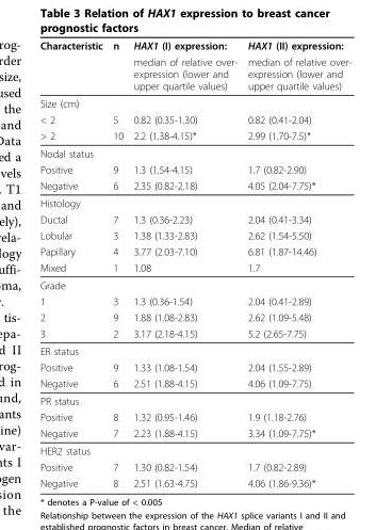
<table><thead><tr><td rowspan="2">Characteristic</td><td rowspan="2">n</td><td rowspan="2">HAX1 (I) expression: median of relative over- expression (lower and upper quartile values)</td><td rowspan="2">HAX1 (II) expression: median of relative over- expression (lower and upper quartile values)</td></tr><tr></tr></thead><tbody><tr><td colspan="4">Size (cm)</td></tr><tr><td>&lt; 2</td><td>5</td><td>0.82 (0.35-1.30)</td><td>0.82 (0.41-2.04)</td></tr><tr><td>&gt; 2</td><td>10</td><td>2.2 (1.38-4.15)*</td><td>2.99 (1.70-7.5)*</td></tr><tr><td colspan="4">Nodal status</td></tr><tr><td>Positive</td><td>9</td><td>1.3 (1.54-4.15)</td><td>1.7 (0.82-2.90)</td></tr><tr><td>Negative</td><td>6</td><td>2.35 (0.82-2.18)</td><td>4.05 (2.04-7.75)*</td></tr><tr><td colspan="4">Histology</td></tr><tr><td>Ductal</td><td>7</td><td>1.3 (0.36-2.23)</td><td>2.04 (0.41-3.34)</td></tr><tr><td>Lobular</td><td>3</td><td>1.38 (1.33-2.83)</td><td>2.62 (1.54-5.50)</td></tr><tr><td>Papillary</td><td>4</td><td>3.77 (2.03-7.10)</td><td>6.81 (1.87-14.46)</td></tr><tr><td>Mixed</td><td>1</td><td>1.08</td><td>1.7</td></tr><tr><td colspan="4">Grade</td></tr><tr><td>1</td><td>3</td><td>1.3 (0.36-1.54)</td><td>2.04 (0.41-2.89)</td></tr><tr><td>2</td><td>9</td><td>1.88 (1.08-2.83)</td><td>2.62 (1.09-5.48)</td></tr><tr><td>3</td><td>2</td><td>3.17 (2.18-4.15)</td><td>5.2 (2.65-7.75)</td></tr><tr><td colspan="4">ER status</td></tr><tr><td>Positive</td><td>9</td><td>1.33 (1.08-1.54)</td><td>2.04 (1.55-2.89)</td></tr><tr><td>Negative</td><td>6</td><td>2.51 (1.88-4.15)</td><td>4.06 (1.09-7.75)</td></tr><tr><td colspan="4">PR status</td></tr><tr><td>Positive</td><td>8</td><td>1.32 (0.95-1.46)</td><td>1.9 (1.18-2.76)</td></tr><tr><td>Negative</td><td>7</td><td>2.23 (1.88-4.15)</td><td>3.34 (1.09-7.75)*</td></tr><tr><td colspan="4">HER2 status</td></tr><tr><td>Positive</td><td>7</td><td>1.30 (0.82-1.54)</td><td>1.7 (0.82-2.89)</td></tr><tr><td>Negative</td><td>8</td><td>2.51 (1.63-4.75)</td><td>4.06 (1.86-9.36)*</td></tr></tbody></table>